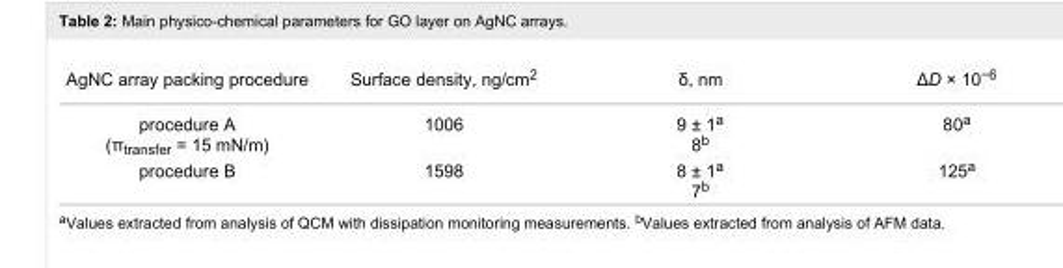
<table><tbody><tr><td>AgNC array packing procedure</td><td>Surface density, ng/cm<sup>2</sup></td><td>δ, nm</td><td>ΔD × 10<sup>−6</sup></td></tr><tr><td>procedure A (π<sub>transfer</sub> = 15 mN/m)</td><td>1006</td><td>9 ± 1<sup>a</sup> 8<sup>b</sup></td><td>80<sup>a</sup></td></tr><tr><td>procedure B</td><td>1598</td><td>8 ± 1<sup>a</sup> 7<sup>b</sup></td><td>125<sup>a</sup></td></tr></tbody></table>